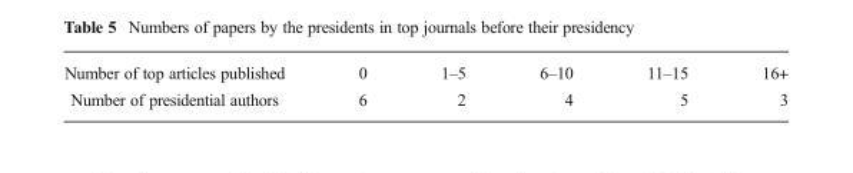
<table><tbody><tr><td>Number of top articles published</td><td>0</td><td>1–5</td><td>6–10</td><td>11–15</td><td>16+</td></tr><tr><td>Number of presidential authors</td><td>6</td><td>2</td><td>4</td><td>5</td><td>3</td></tr></tbody></table>